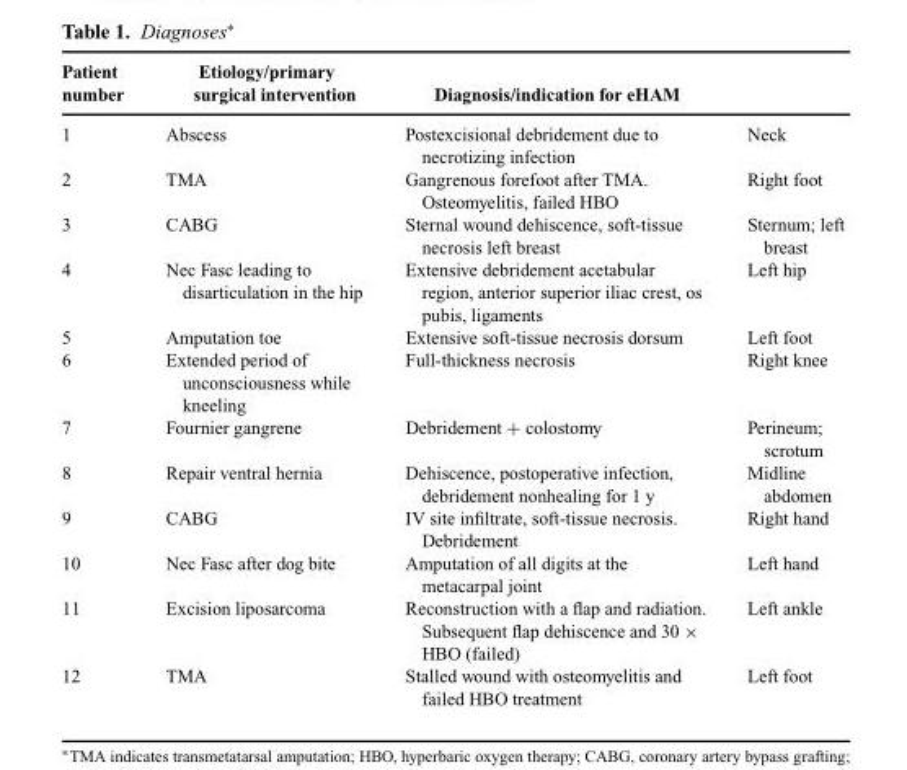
<table><thead><tr><td>Patient number</td><td>Etiology/primary surgical intervention</td><td>Diagnosis/indication for eHAM</td><td></td></tr></thead><tbody><tr><td>1</td><td>Abscess</td><td>Postexcisional debridement due to necrotizing infection</td><td>Neck</td></tr><tr><td>2</td><td>TMA</td><td>Gangrenous forefoot after TMA. Osteomyelitis, failed HBO</td><td>Right foot</td></tr><tr><td>3</td><td>CABG</td><td>Sternal wound dehiscence, soft-tissue necrosis left breast</td><td>Sternum; left breast</td></tr><tr><td>4</td><td>Nec Fasc leading to disarticulation in the hip</td><td>Extensive debridement acetabular region, anterior superior iliac crest, os pubis, ligaments</td><td>Left hip</td></tr><tr><td>5</td><td>Amputation toe</td><td>Extensive soft-tissue necrosis dorsum</td><td>Left foot</td></tr><tr><td>6</td><td>Extended period of unconsciousness while kneeling</td><td>Full-thickness necrosis</td><td>Right knee</td></tr><tr><td>7</td><td>Fournier gangrene</td><td>Debridement + colostomy</td><td>Perineum; scrotum</td></tr><tr><td>8</td><td>Repair ventral hernia</td><td>Dehiscence, postoperative infection, debridement nonhealing for 1 y</td><td>Midline abdomen</td></tr><tr><td>9</td><td>CABG</td><td>IV site infiltrate, soft-tissue necrosis. Debridement</td><td>Right hand</td></tr><tr><td>10</td><td>Nec Fasc after dog bite</td><td>Amputation of all digits at the metacarpal joint</td><td>Left hand</td></tr><tr><td>11</td><td>Excision liposarcoma</td><td>Reconstruction with a flap and radiation. Subsequent flap dehiscence and 30 × HBO (failed)</td><td>Left ankle</td></tr><tr><td>12</td><td>TMA</td><td>Stalled wound with osteomyelitis and failed HBO treatment</td><td>Left foot</td></tr></tbody></table>